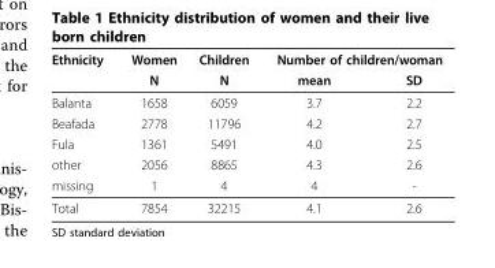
<table><thead><tr><td rowspan="2">Ethnicity</td><td rowspan="2">Women N</td><td rowspan="2">Children N</td><td colspan="2">Number of children/woman</td></tr><tr><td>mean</td><td>SD</td></tr></thead><tbody><tr><td>Balanta</td><td>1658</td><td>6059</td><td>3.7</td><td>2.2</td></tr><tr><td>Beafada</td><td>2778</td><td>11796</td><td>4.2</td><td>2.7</td></tr><tr><td>Fula</td><td>1361</td><td>5491</td><td>4.0</td><td>2.5</td></tr><tr><td>other</td><td>2056</td><td>8865</td><td>4.3</td><td>2.6</td></tr><tr><td>missing</td><td>1</td><td>4</td><td>4</td><td>-</td></tr><tr><td>Total</td><td>7854</td><td>32215</td><td>4.1</td><td>2.6</td></tr></tbody></table>